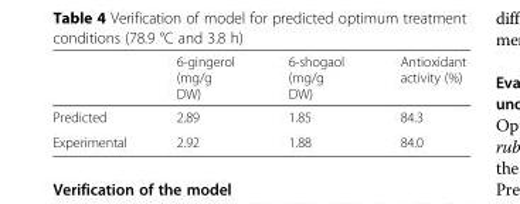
<table><thead><tr><td></td><td>6-gingerol (mg/g DW)</td><td>6-shogaol (mg/g DW)</td><td>Antioxidant activity (%)</td></tr></thead><tbody><tr><td>Predicted</td><td>2.89</td><td>1.85</td><td>84.3</td></tr><tr><td>Experimental</td><td>2.92</td><td>1.88</td><td>84.0</td></tr></tbody></table>